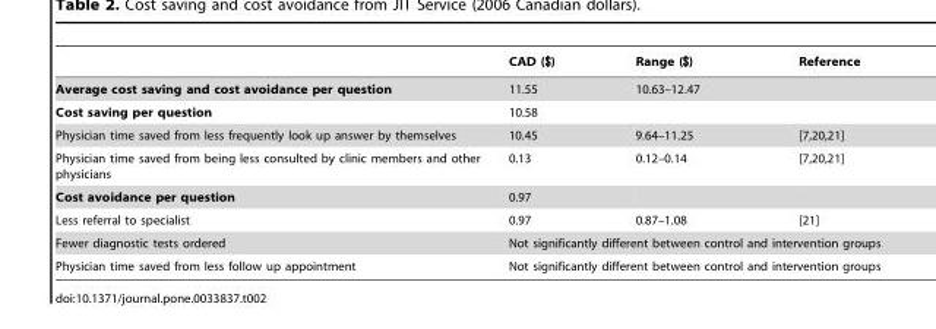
<table><thead><tr><td></td><td>CAD ($)</td><td>Range ($)</td><td>Reference</td></tr></thead><tbody><tr><td>Average cost saving and cost avoidance per question</td><td>11.55</td><td>10.63–12.47</td><td></td></tr><tr><td>Cost saving per question</td><td>10.58</td><td></td><td></td></tr><tr><td>Physician time saved from less frequently look up answer by themselves</td><td>10.45</td><td>9.64–11.25</td><td>[7,20,21]</td></tr><tr><td>Physician time saved from being less consulted by clinic members and other physicians</td><td>0.13</td><td>0.12–0.14</td><td>[7,20,21]</td></tr><tr><td>Cost avoidance per question</td><td>0.97</td><td></td><td></td></tr><tr><td>Less referral to specialist</td><td>0.97</td><td>0.87–1.08</td><td>[21]</td></tr><tr><td>Fewer diagnostic tests ordered</td><td colspan="3">Not significantly different between control and intervention groups</td></tr><tr><td>Physician time saved from less follow up appointment</td><td colspan="3">Not significantly different between control and intervention groups</td></tr></tbody></table>